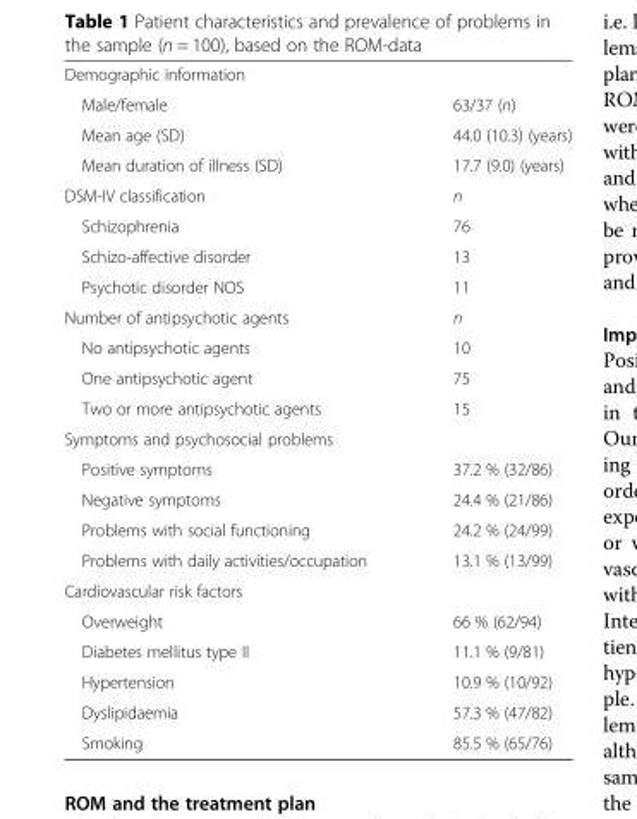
<table><tbody><tr><td colspan="2">Demographic information</td></tr><tr><td>Male/female</td><td>63/37 (n)</td></tr><tr><td>Mean age (SD)</td><td>44.0 (10.3) (years)</td></tr><tr><td>Mean duration of illness (SD)</td><td>17.7 (9.0) (years)</td></tr><tr><td>DSM-IV classification</td><td>n</td></tr><tr><td>Schizophrenia</td><td>76</td></tr><tr><td>Schizo-affective disorder</td><td>13</td></tr><tr><td>Psychotic disorder NOS</td><td>11</td></tr><tr><td>Number of antipsychotic agents</td><td>n</td></tr><tr><td>No antipsychotic agents</td><td>10</td></tr><tr><td>One antipsychotic agent</td><td>75</td></tr><tr><td>Two or more antipsychotic agents</td><td>15</td></tr><tr><td colspan="2">Symptoms and psychosocial problems</td></tr><tr><td>Positive symptoms</td><td>37.2 % (32/86)</td></tr><tr><td>Negative symptoms</td><td>24.4 % (21/86)</td></tr><tr><td>Problems with social functioning</td><td>24.2 % (24/99)</td></tr><tr><td>Problems with daily activities/occupation</td><td>13.1 % (13/99)</td></tr><tr><td colspan="2">Cardiovascular risk factors</td></tr><tr><td>Overweight</td><td>66 % (62/94)</td></tr><tr><td>Diabetes mellitus type II</td><td>11.1 % (9/81)</td></tr><tr><td>Hypertension</td><td>10.9 % (10/92)</td></tr><tr><td>Dyslipidaemia</td><td>57.3 % (47/82)</td></tr><tr><td>Smoking</td><td>85.5 % (65/76)</td></tr></tbody></table>